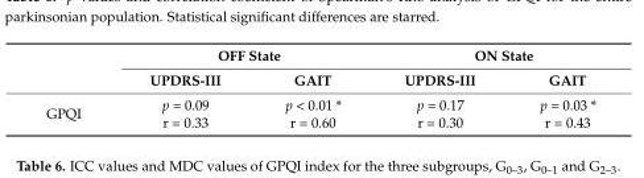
<table><thead><tr><td rowspan="2"></td><td colspan="2">OFF State</td><td colspan="2">ON State</td></tr><tr><td>UPDRS-III</td><td>GAIT</td><td>UPDRS-III</td><td>GAIT</td></tr></thead><tbody><tr><td>GPQI</td><td>p = 0.09 r = 0.33</td><td>p &lt; 0.01 * r = 0.60</td><td>p = 0.17 r = 0.30</td><td>p = 0.03 * r = 0.43</td></tr></tbody></table>